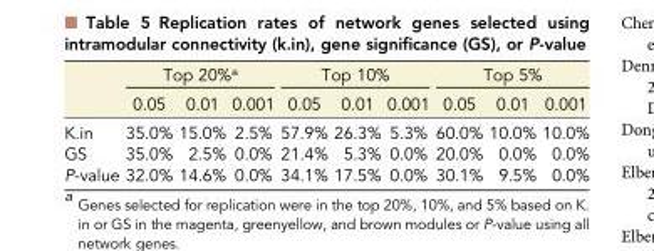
<table><thead><tr><td rowspan="2"></td><td colspan="3">Top 20%<sup>a</sup></td><td colspan="3">Top 10%</td><td colspan="3">Top 5%</td></tr><tr><td>0.05</td><td>0.01</td><td>0.001</td><td>0.05</td><td>0.01</td><td>0.001</td><td>0.05</td><td>0.01</td><td>0.001</td></tr></thead><tbody><tr><td>K.in</td><td>35.0%</td><td>15.0%</td><td>2.5%</td><td>57.9%</td><td>26.3%</td><td>5.3%</td><td>60.0%</td><td>10.0%</td><td>10.0%</td></tr><tr><td>GS</td><td>35.0%</td><td>2.5%</td><td>0.0%</td><td>21.4%</td><td>5.3%</td><td>0.0%</td><td>20.0%</td><td>0.0%</td><td>0.0%</td></tr><tr><td>P-value</td><td>32.0%</td><td>14.6%</td><td>0.0%</td><td>34.1%</td><td>17.5%</td><td>0.0%</td><td>30.1%</td><td>9.5%</td><td>0.0%</td></tr></tbody></table>